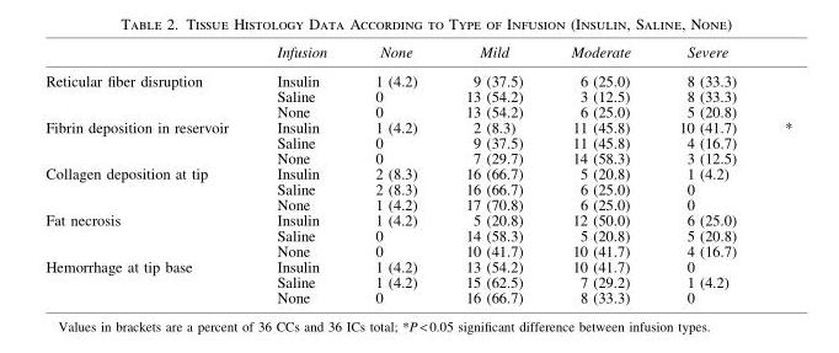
<table><thead><tr><td></td><td>Infusion</td><td>None</td><td>Mild</td><td>Moderate</td><td>Severe</td><td></td></tr></thead><tbody><tr><td rowspan="3">Reticular fiber disruption</td><td>Insulin</td><td>1 (4.2)</td><td>9 (37.5)</td><td>6 (25.0)</td><td>8 (33.3)</td><td></td></tr><tr><td>Saline</td><td>0</td><td>13 (54.2)</td><td>3 (12.5)</td><td>8 (33.3)</td><td></td></tr><tr><td>None</td><td>0</td><td>13 (54.2)</td><td>6 (25.0)</td><td>5 (20.8)</td><td></td></tr><tr><td rowspan="3">Fibrin deposition in reservoir</td><td>Insulin</td><td>1 (4.2)</td><td>2 (8.3)</td><td>11 (45.8)</td><td>10 (41.7)</td><td rowspan="3">*</td></tr><tr><td>Saline</td><td>0</td><td>9 (37.5)</td><td>11 (45.8)</td><td>4 (16.7)</td></tr><tr><td>None</td><td>0</td><td>7 (29.7)</td><td>14 (58.3)</td><td>3 (12.5)</td></tr><tr><td rowspan="3">Collagen deposition at tip</td><td>Insulin</td><td>2 (8.3)</td><td>16 (66.7)</td><td>5 (20.8)</td><td>1 (4.2)</td><td></td></tr><tr><td>Saline</td><td>2 (8.3)</td><td>16 (66.7)</td><td>6 (25.0)</td><td>0</td><td></td></tr><tr><td>None</td><td>1 (4.2)</td><td>17 (70.8)</td><td>6 (25.0)</td><td>0</td><td></td></tr><tr><td rowspan="3">Fat necrosis</td><td>Insulin</td><td>1 (4.2)</td><td>5 (20.8)</td><td>12 (50.0)</td><td>6 (25.0)</td><td></td></tr><tr><td>Saline</td><td>0</td><td>14 (58.3)</td><td>5 (20.8)</td><td>5 (20.8)</td><td></td></tr><tr><td>None</td><td>0</td><td>10 (41.7)</td><td>10 (41.7)</td><td>4 (16.7)</td><td></td></tr><tr><td rowspan="3">Hemorrhage at tip base</td><td>Insulin</td><td>1 (4.2)</td><td>13 (54.2)</td><td>10 (41.7)</td><td>0</td><td></td></tr><tr><td>Saline</td><td>1 (4.2)</td><td>15 (62.5)</td><td>7 (29.2)</td><td>1 (4.2)</td><td></td></tr><tr><td>None</td><td>0</td><td>16 (66.7)</td><td>8 (33.3)</td><td>0</td><td></td></tr></tbody></table>